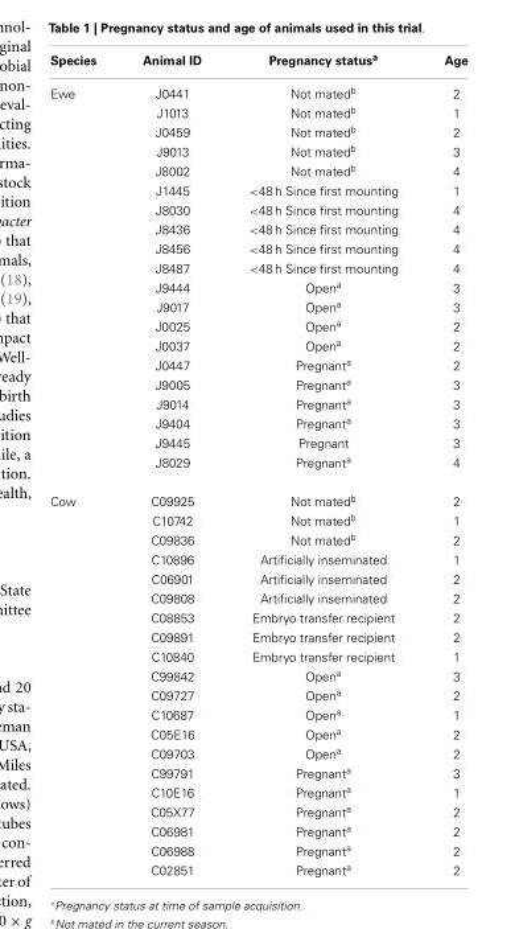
<table><thead><tr><td>Species</td><td>Animal ID</td><td>Pregnancy status<sup>a</sup></td><td>Age</td></tr></thead><tbody><tr><td rowspan="20">Ewe</td><td>J0441</td><td>Not mated<sup>b</sup></td><td>2</td></tr><tr><td>J1013</td><td>Not mated<sup>b</sup></td><td>1</td></tr><tr><td>J0459</td><td>Not mated<sup>b</sup></td><td>2</td></tr><tr><td>J9013</td><td>Not mated<sup>b</sup></td><td>3</td></tr><tr><td>J8002</td><td>Not mated<sup>b</sup></td><td>4</td></tr><tr><td>J1445</td><td>&lt;48 h Since first mounting</td><td>1</td></tr><tr><td>J8030</td><td>&lt;48 h Since first mounting</td><td>4</td></tr><tr><td>J8436</td><td>&lt;48 h Since first mounting</td><td>4</td></tr><tr><td>J8456</td><td>&lt;48 h Since first mounting</td><td>4</td></tr><tr><td>J8487</td><td>&lt;48 h Since first mounting</td><td>4</td></tr><tr><td>J9444</td><td>Open<sup>a</sup></td><td>3</td></tr><tr><td>J9017</td><td>Open<sup>a</sup></td><td>3</td></tr><tr><td>J0025</td><td>Open<sup>a</sup></td><td>2</td></tr><tr><td>J0037</td><td>Open<sup>a</sup></td><td>2</td></tr><tr><td>J0447</td><td>Pregnant<sup>a</sup></td><td>2</td></tr><tr><td>J9005</td><td>Pregnant<sup>a</sup></td><td>3</td></tr><tr><td>J9014</td><td>Pregnant<sup>a</sup></td><td>3</td></tr><tr><td>J9404</td><td>Pregnant<sup>a</sup></td><td>3</td></tr><tr><td>J9445</td><td>Pregnant</td><td>3</td></tr><tr><td>J8029</td><td>Pregnant<sup>a</sup></td><td>4</td></tr><tr><td rowspan="20">Cow</td><td>C09925</td><td>Not mated<sup>b</sup></td><td>2</td></tr><tr><td>C10742</td><td>Not mated<sup>b</sup></td><td>1</td></tr><tr><td>C09836</td><td>Not mated<sup>b</sup></td><td>2</td></tr><tr><td>C10896</td><td>Artificially inseminated</td><td>1</td></tr><tr><td>C06901</td><td>Artificially inseminated</td><td>2</td></tr><tr><td>C09808</td><td>Artificially inseminated</td><td>2</td></tr><tr><td>C08853</td><td>Embryo transfer recipient</td><td>2</td></tr><tr><td>C09891</td><td>Embryo transfer recipient</td><td>2</td></tr><tr><td>C10840</td><td>Embryo transfer recipient</td><td>1</td></tr><tr><td>C99842</td><td>Open<sup>a</sup></td><td>3</td></tr><tr><td>C09727</td><td>Open<sup>a</sup></td><td>2</td></tr><tr><td>C10687</td><td>Open<sup>a</sup></td><td>1</td></tr><tr><td>C05E16</td><td>Open<sup>a</sup></td><td>2</td></tr><tr><td>C09703</td><td>Open<sup>a</sup></td><td>2</td></tr><tr><td>C99791</td><td>Pregnant<sup>a</sup></td><td>3</td></tr><tr><td>C10E16</td><td>Pregnant<sup>a</sup></td><td>1</td></tr><tr><td>C05X77</td><td>Pregnant<sup>a</sup></td><td>2</td></tr><tr><td>C06981</td><td>Pregnant<sup>a</sup></td><td>2</td></tr><tr><td>C06988</td><td>Pregnant<sup>a</sup></td><td>2</td></tr><tr><td>C02851</td><td>Pregnant<sup>a</sup></td><td>2</td></tr></tbody></table>